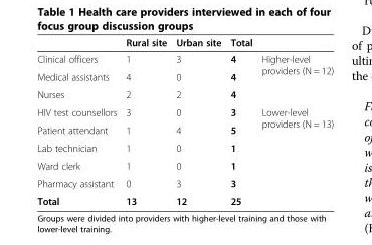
<table><thead><tr><td></td><td>Rural site</td><td>Urban site</td><td>Total</td><td></td></tr></thead><tbody><tr><td>Clinical officers</td><td>1</td><td>3</td><td>4</td><td rowspan="3">Higher-level providers (N = 12)</td></tr><tr><td>Medical assistants</td><td>4</td><td>0</td><td>4</td></tr><tr><td>Nurses</td><td>2</td><td>2</td><td>4</td></tr><tr><td>HIV test counsellors</td><td>3</td><td>0</td><td>3</td><td rowspan="5">Lower-level providers (N = 13)</td></tr><tr><td>Patient attendant</td><td>1</td><td>4</td><td>5</td></tr><tr><td>Lab technician</td><td>1</td><td>0</td><td>1</td></tr><tr><td>Ward clerk</td><td>1</td><td>0</td><td>1</td></tr><tr><td>Pharmacy assistant</td><td>0</td><td>3</td><td>3</td></tr><tr><td>Total</td><td>13</td><td>12</td><td>25</td><td></td></tr></tbody></table>